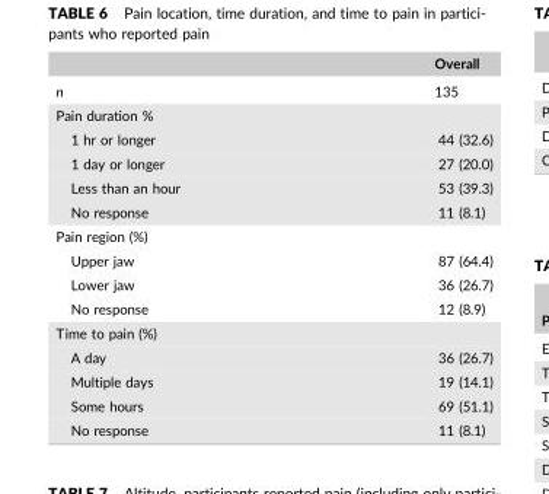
<table><thead><tr><td></td><td>Overall</td></tr></thead><tbody><tr><td>n</td><td>135</td></tr><tr><td colspan="2">Pain duration %</td></tr><tr><td>1 hr or longer</td><td>44 (32.6)</td></tr><tr><td>1 day or longer</td><td>27 (20.0)</td></tr><tr><td>Less than an hour</td><td>53 (39.3)</td></tr><tr><td>No response</td><td>11 (8.1)</td></tr><tr><td colspan="2">Pain region (%)</td></tr><tr><td>Upper jaw</td><td>87 (64.4)</td></tr><tr><td>Lower jaw</td><td>36 (26.7)</td></tr><tr><td>No response</td><td>12 (8.9)</td></tr><tr><td colspan="2">Time to pain (%)</td></tr><tr><td>A day</td><td>36 (26.7)</td></tr><tr><td>Multiple days</td><td>19 (14.1)</td></tr><tr><td>Some hours</td><td>69 (51.1)</td></tr><tr><td>No response</td><td>11 (8.1)</td></tr></tbody></table>